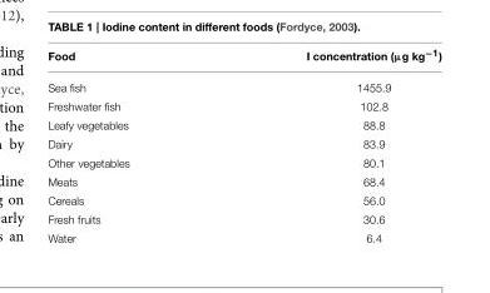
<table><thead><tr><td>Food</td><td>I concentration (µg kg<sup>−1</sup>)</td></tr></thead><tbody><tr><td>Sea fish</td><td>1455.9</td></tr><tr><td>Freshwater fish</td><td>102.8</td></tr><tr><td>Leafy vegetables</td><td>88.8</td></tr><tr><td>Dairy</td><td>83.9</td></tr><tr><td>Other vegetables</td><td>80.1</td></tr><tr><td>Meats</td><td>68.4</td></tr><tr><td>Cereals</td><td>56.0</td></tr><tr><td>Fresh fruits</td><td>30.6</td></tr><tr><td>Water</td><td>6.4</td></tr></tbody></table>